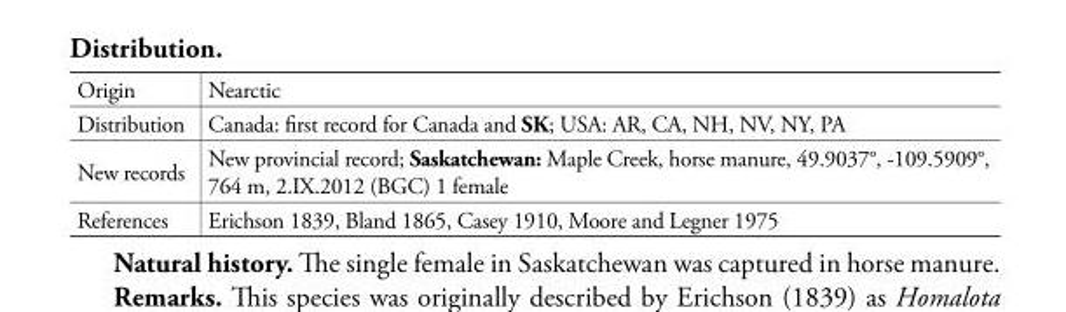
<table><tbody><tr><td>Origin</td><td>Nearctic</td></tr><tr><td>Distribution</td><td>Canada: first record for Canada and SK; USA: AR, CA, NH, NV, NY, PA</td></tr><tr><td>New records</td><td>New provincial record; Saskatchewan: Maple Creek, horse manure, 49.9037°, -109.5909°, 764 m, 2.IX.2012 (BGC) 1 female</td></tr><tr><td>References</td><td>Erichson 1839, Bland 1865, Casey 1910, Moore and Legner 1975</td></tr></tbody></table>